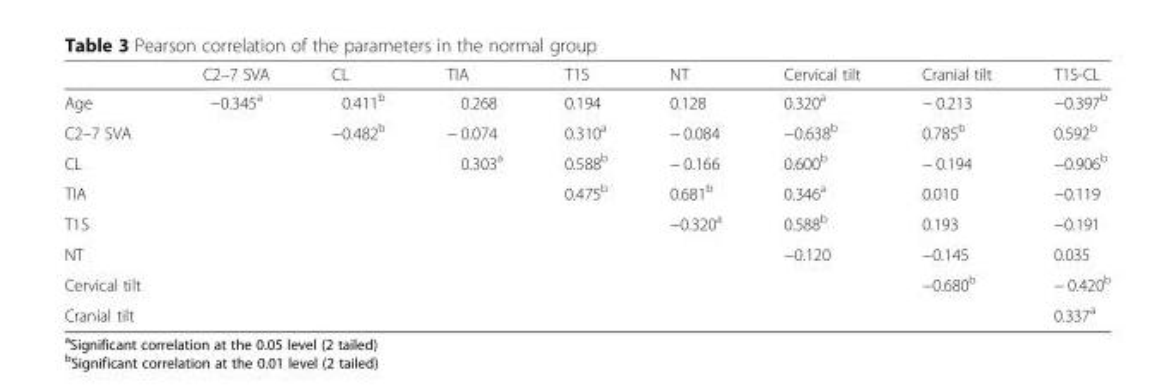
<table><thead><tr><td></td><td>C2–7 SVA</td><td>CL</td><td>TIA</td><td>T1S</td><td>NT</td><td>Cervical tilt</td><td>Cranial tilt</td><td>T1S-CL</td></tr></thead><tbody><tr><td>Age</td><td>−0.345<sup>a</sup></td><td>0.411<sup>b</sup></td><td>0.268</td><td>0.194</td><td>0.128</td><td>0.320<sup>a</sup></td><td>− 0.213</td><td>−0.397<sup>b</sup></td></tr><tr><td>C2–7 SVA</td><td></td><td>−0.482<sup>b</sup></td><td>− 0.074</td><td>0.310<sup>a</sup></td><td>− 0.084</td><td>−0.638<sup>b</sup></td><td>0.785<sup>b</sup></td><td>0.592<sup>b</sup></td></tr><tr><td>CL</td><td></td><td></td><td>0.303<sup>a</sup></td><td>0.588<sup>b</sup></td><td>− 0.166</td><td>0.600<sup>b</sup></td><td>− 0.194</td><td>−0.906<sup>b</sup></td></tr><tr><td>TIA</td><td></td><td></td><td></td><td>0.475<sup>b</sup></td><td>0.681<sup>b</sup></td><td>0.346<sup>a</sup></td><td>0.010</td><td>−0.119</td></tr><tr><td>T1S</td><td></td><td></td><td></td><td></td><td>−0.320<sup>a</sup></td><td>0.588<sup>b</sup></td><td>0.193</td><td>−0.191</td></tr><tr><td>NT</td><td></td><td></td><td></td><td></td><td></td><td>−0.120</td><td>−0.145</td><td>0.035</td></tr><tr><td>Cervical tilt</td><td></td><td></td><td></td><td></td><td></td><td></td><td>−0.680<sup>b</sup></td><td>− 0.420<sup>b</sup></td></tr><tr><td>Cranial tilt</td><td></td><td></td><td></td><td></td><td></td><td></td><td></td><td>0.337<sup>a</sup></td></tr></tbody></table>